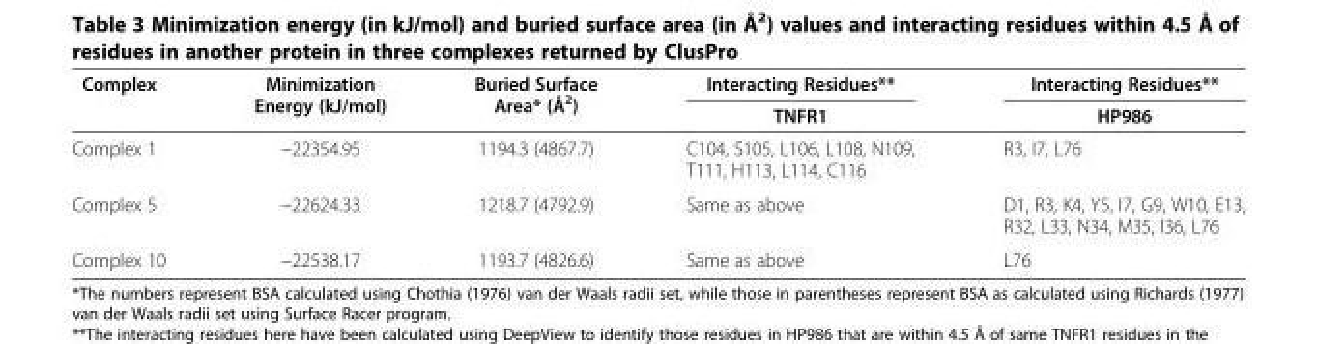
<table><thead><tr><td rowspan="2">Complex</td><td rowspan="2">Minimization Energy (kJ/mol)</td><td rowspan="2">Buried Surface Area* (Å<sup>2</sup>)</td><td rowspan="2">Interacting Residues** TNFR1</td><td rowspan="2">Interacting Residues** HP986</td></tr><tr></tr></thead><tbody><tr><td>Complex 1</td><td>−22354.95</td><td>1194.3 (4867.7)</td><td>C104, S105, L106, L108, N109, T111, H113, L114, C116</td><td>R3, I7, L76</td></tr><tr><td>Complex 5</td><td>−22624.33</td><td>1218.7 (4792.9)</td><td>Same as above</td><td>D1, R3, K4, Y5, I7, G9, W10, E13, R32, L33, N34, M35, I36, L76</td></tr><tr><td>Complex 10</td><td>−22538.17</td><td>1193.7 (4826.6)</td><td>Same as above</td><td>L76</td></tr></tbody></table>